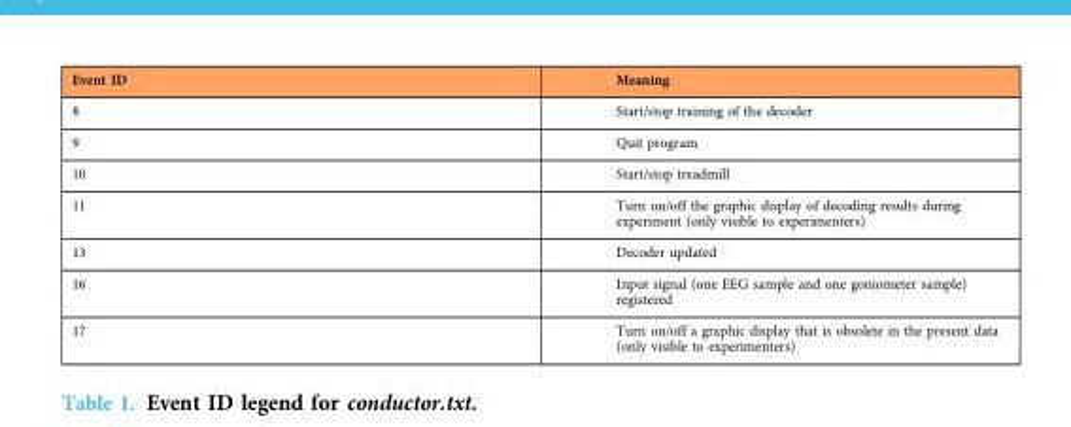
<table><thead><tr><td>Event ID</td><td>Meaning</td></tr></thead><tbody><tr><td>8</td><td>Start/stop training of the decoder</td></tr><tr><td>9</td><td>Quit program</td></tr><tr><td>10</td><td>Start/stop treadmill</td></tr><tr><td>11</td><td>Turn on/off the graphic display of decoding results during experiment (only visible to experimenters)</td></tr><tr><td>13</td><td>Decoder updated</td></tr><tr><td>16</td><td>Input signal (one EEG sample and one goniometer sample) registered</td></tr><tr><td>17</td><td>Turn on/off a graphic display that is obsolete in the present data (only visible to experimenters)</td></tr></tbody></table>